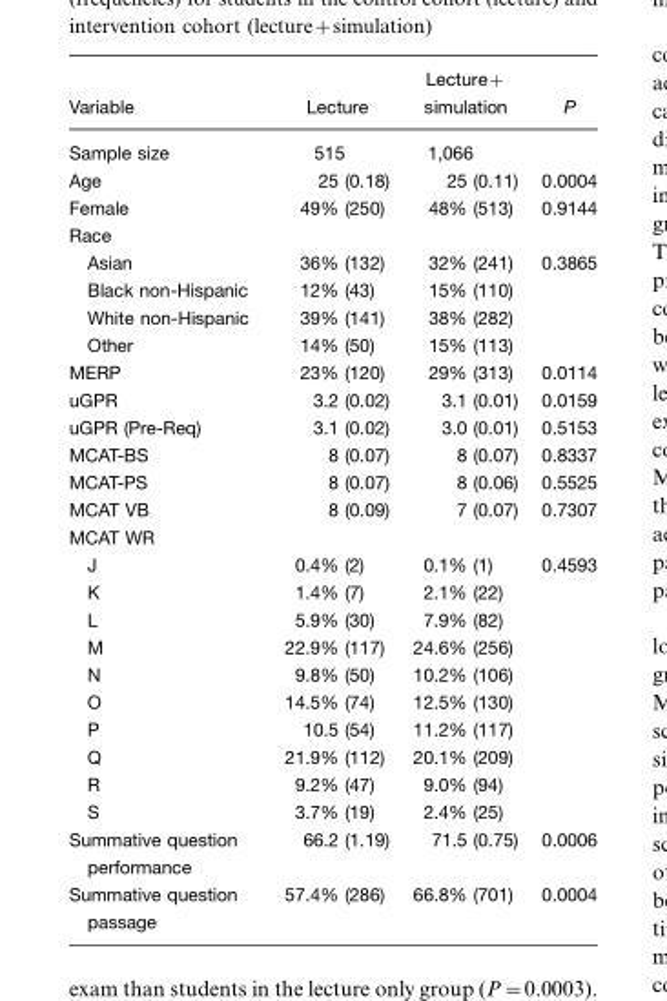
<table><thead><tr><td>Variable</td><td>Lecture</td><td>Lecture+ simulation</td><td>P</td></tr></thead><tbody><tr><td>Sample size</td><td>515</td><td>1,066</td><td></td></tr><tr><td>Age</td><td>25 (0.18)</td><td>25 (0.11)</td><td>0.0004</td></tr><tr><td>Female</td><td>49% (250)</td><td>48% (513)</td><td>0.9144</td></tr><tr><td colspan="4">Race</td></tr><tr><td>Asian</td><td>36% (132)</td><td>32% (241)</td><td>0.3865</td></tr><tr><td>Black non-Hispanic</td><td>12% (43)</td><td>15% (110)</td><td></td></tr><tr><td>White non-Hispanic</td><td>39% (141)</td><td>38% (282)</td><td></td></tr><tr><td>Other</td><td>14% (50)</td><td>15% (113)</td><td></td></tr><tr><td>MERP</td><td>23% (120)</td><td>29% (313)</td><td>0.0114</td></tr><tr><td>uGPR</td><td>3.2 (0.02)</td><td>3.1 (0.01)</td><td>0.0159</td></tr><tr><td>uGPR (Pre-Req)</td><td>3.1 (0.02)</td><td>3.0 (0.01)</td><td>0.5153</td></tr><tr><td>MCAT-BS</td><td>8 (0.07)</td><td>8 (0.07)</td><td>0.8337</td></tr><tr><td>MCAT-PS</td><td>8 (0.07)</td><td>8 (0.06)</td><td>0.5525</td></tr><tr><td>MCAT VB</td><td>8 (0.09)</td><td>7 (0.07)</td><td>0.7307</td></tr><tr><td colspan="4">MCAT WR</td></tr><tr><td>J</td><td>0.4% (2)</td><td>0.1% (1)</td><td>0.4593</td></tr><tr><td>K</td><td>1.4% (7)</td><td>2.1% (22)</td><td></td></tr><tr><td>L</td><td>5.9% (30)</td><td>7.9% (82)</td><td></td></tr><tr><td>M</td><td>22.9% (117)</td><td>24.6% (256)</td><td></td></tr><tr><td>N</td><td>9.8% (50)</td><td>10.2% (106)</td><td></td></tr><tr><td>O</td><td>14.5% (74)</td><td>12.5% (130)</td><td></td></tr><tr><td>P</td><td>10.5 (54)</td><td>11.2% (117)</td><td></td></tr><tr><td>Q</td><td>21.9% (112)</td><td>20.1% (209)</td><td></td></tr><tr><td>R</td><td>9.2% (47)</td><td>9.0% (94)</td><td></td></tr><tr><td>S</td><td>3.7% (19)</td><td>2.4% (25)</td><td></td></tr><tr><td>Summative question performance</td><td>66.2 (1.19)</td><td>71.5 (0.75)</td><td>0.0006</td></tr><tr><td>Summative question passage</td><td>57.4% (286)</td><td>66.8% (701)</td><td>0.0004</td></tr></tbody></table>